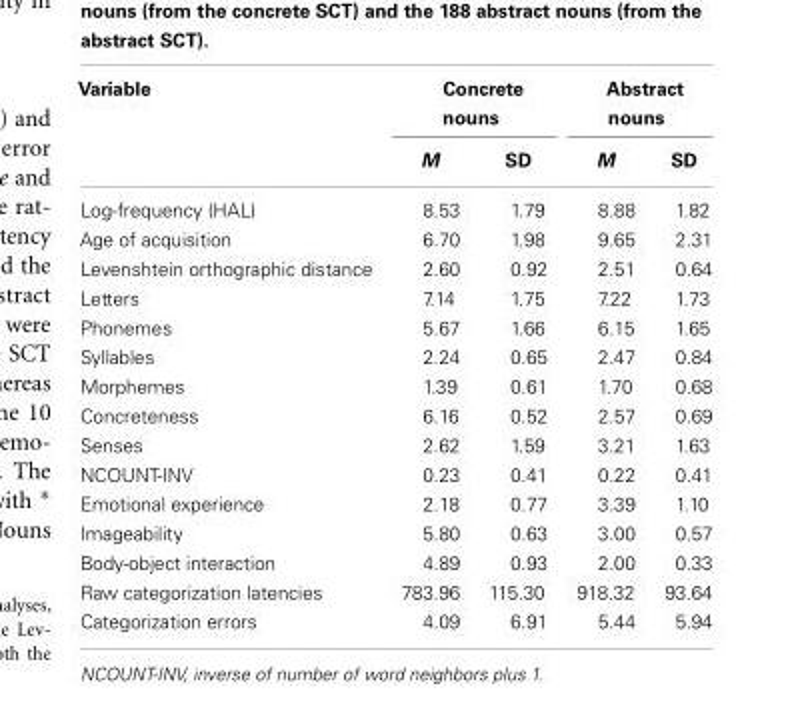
<table><thead><tr><td rowspan="2">Variable</td><td colspan="2">Concrete nouns</td><td colspan="2">Abstract nouns</td></tr><tr><td>M</td><td>SD</td><td>M</td><td>SD</td></tr></thead><tbody><tr><td>Log-frequency (HAL)</td><td>8.53</td><td>1.79</td><td>8.88</td><td>1.82</td></tr><tr><td>Age of acquisition</td><td>6.70</td><td>1.98</td><td>9.65</td><td>2.31</td></tr><tr><td>Levenshtein orthographic distance</td><td>2.60</td><td>0.92</td><td>2.51</td><td>0.64</td></tr><tr><td>Letters</td><td>7.14</td><td>1.75</td><td>7.22</td><td>1.73</td></tr><tr><td>Phonemes</td><td>5.67</td><td>1.66</td><td>6.15</td><td>1.65</td></tr><tr><td>Syllables</td><td>2.24</td><td>0.65</td><td>2.47</td><td>0.84</td></tr><tr><td>Morphemes</td><td>1.39</td><td>0.61</td><td>1.70</td><td>0.68</td></tr><tr><td>Concreteness</td><td>6.16</td><td>0.52</td><td>2.57</td><td>0.69</td></tr><tr><td>Senses</td><td>2.62</td><td>1.59</td><td>3.21</td><td>1.63</td></tr><tr><td>NCOUNT-INV</td><td>0.23</td><td>0.41</td><td>0.22</td><td>0.41</td></tr><tr><td>Emotional experience</td><td>2.18</td><td>0.77</td><td>3.39</td><td>1.10</td></tr><tr><td>Imageability</td><td>5.80</td><td>0.63</td><td>3.00</td><td>0.57</td></tr><tr><td>Body-object interaction</td><td>4.89</td><td>0.93</td><td>2.00</td><td>0.33</td></tr><tr><td>Raw categorization latencies</td><td>783.96</td><td>115.30</td><td>918.32</td><td>93.64</td></tr><tr><td>Categorization errors</td><td>4.09</td><td>6.91</td><td>5.44</td><td>5.94</td></tr></tbody></table>